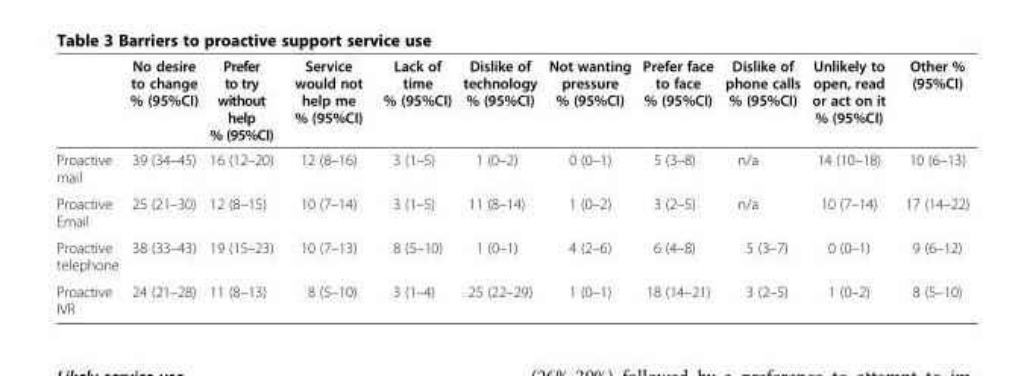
<table><thead><tr><td></td><td>No desire to change % (95%CI)</td><td>Prefer to try without help % (95%CI)</td><td>Service would not help me % (95%CI)</td><td>Lack of time % (95%CI)</td><td>Dislike of technology % (95%CI)</td><td>Not wanting pressure % (95%CI)</td><td>Prefer face to face % (95%CI)</td><td>Dislike of phone calls % (95%CI)</td><td>Unlikely to open, read or act on it % (95%CI)</td><td>Other % (95%CI)</td></tr></thead><tbody><tr><td>Proactive mail</td><td>39 (34–45)</td><td>16 (12–20)</td><td>12 (8–16)</td><td>3 (1–5)</td><td>1 (0–2)</td><td>0 (0–1)</td><td>5 (3–8)</td><td>n/a</td><td>14 (10–18)</td><td>10 (6–13)</td></tr><tr><td>Proactive Email</td><td>25 (21–30)</td><td>12 (8–15)</td><td>10 (7–14)</td><td>3 (1–5)</td><td>11 (8–14)</td><td>1 (0–2)</td><td>3 (2–5)</td><td>n/a</td><td>10 (7–14)</td><td>17 (14–22)</td></tr><tr><td>Proactive telephone</td><td>38 (33–43)</td><td>19 (15–23)</td><td>10 (7–13)</td><td>8 (5–10)</td><td>1 (0–1)</td><td>4 (2–6)</td><td>6 (4–8)</td><td>5 (3–7)</td><td>0 (0–1)</td><td>9 (6–12)</td></tr><tr><td>Proactive IVR</td><td>24 (21–28)</td><td>11 (8–13)</td><td>8 (5–10)</td><td>3 (1–4)</td><td>25 (22–29)</td><td>1 (0–1)</td><td>18 (14–21)</td><td>3 (2–5)</td><td>1 (0–2)</td><td>8 (5–10)</td></tr></tbody></table>